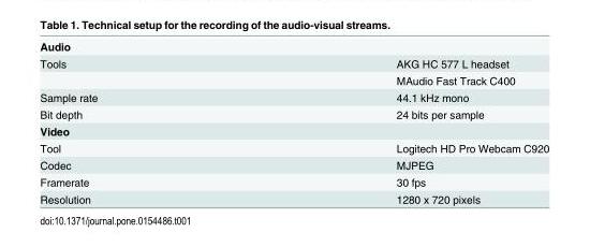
<table><tbody><tr><td colspan="2">Audio</td></tr><tr><td rowspan="2">Tools</td><td>AKG HC 577 L headset</td></tr><tr><td>MAudio Fast Track C400</td></tr><tr><td>Sample rate</td><td>44.1 kHz mono</td></tr><tr><td>Bit depth</td><td>24 bits per sample</td></tr><tr><td colspan="2">Video</td></tr><tr><td>Tool</td><td>Logitech HD Pro Webcam C920</td></tr><tr><td>Codec</td><td>MJPEG</td></tr><tr><td>Framerate</td><td>30 fps</td></tr><tr><td>Resolution</td><td>1280 x 720 pixels</td></tr></tbody></table>